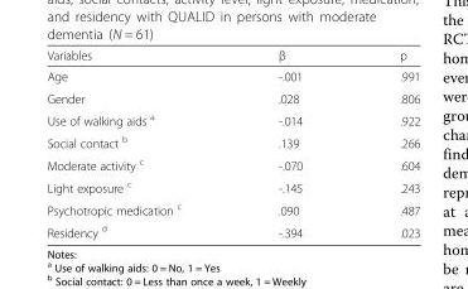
<table><thead><tr><td>Variables</td><td>β</td><td>p</td></tr></thead><tbody><tr><td>Age</td><td>-.001</td><td>.991</td></tr><tr><td>Gender</td><td>.028</td><td>.806</td></tr><tr><td>Use of walking aids <sup>a</sup></td><td>-.014</td><td>.922</td></tr><tr><td>Social contact <sup>b</sup></td><td>.139</td><td>.266</td></tr><tr><td>Moderate activity <sup>c</sup></td><td>-.070</td><td>.604</td></tr><tr><td>Light exposure <sup>c</sup></td><td>-.145</td><td>.243</td></tr><tr><td>Psychotropic medication <sup>c</sup></td><td>.090</td><td>.487</td></tr><tr><td>Residency <sup>d</sup></td><td>-.394</td><td>.023</td></tr></tbody></table>